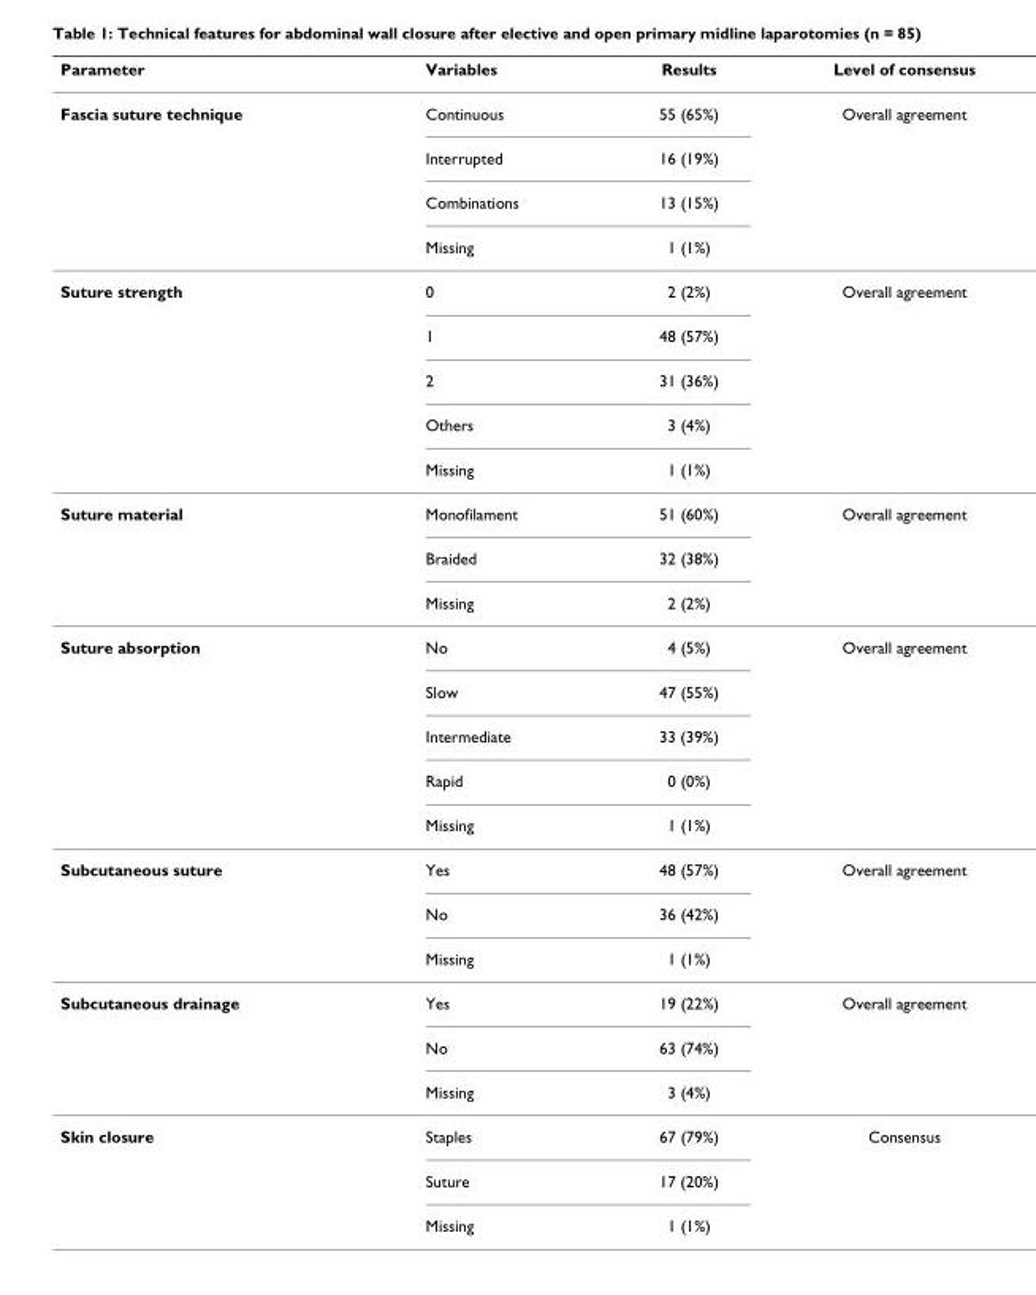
<table><thead><tr><td>Parameter</td><td>Variables</td><td>Results</td><td>Level of consensus</td></tr></thead><tbody><tr><td rowspan="4">Fascia suture technique</td><td>Continuous</td><td>55 (65%)</td><td>Overall agreement</td></tr><tr><td>Interrupted</td><td>16 (19%)</td><td></td></tr><tr><td>Combinations</td><td>13 (15%)</td><td></td></tr><tr><td>Missing</td><td>1 (1%)</td><td></td></tr><tr><td rowspan="5">Suture strength</td><td>0</td><td>2 (2%)</td><td>Overall agreement</td></tr><tr><td>1</td><td>48 (57%)</td><td></td></tr><tr><td>2</td><td>31 (36%)</td><td></td></tr><tr><td>Others</td><td>3 (4%)</td><td></td></tr><tr><td>Missing</td><td>1 (1%)</td><td></td></tr><tr><td rowspan="3">Suture material</td><td>Monofilament</td><td>51 (60%)</td><td>Overall agreement</td></tr><tr><td>Braided</td><td>32 (38%)</td><td></td></tr><tr><td>Missing</td><td>2 (2%)</td><td></td></tr><tr><td rowspan="5">Suture absorption</td><td>No</td><td>4 (5%)</td><td>Overall agreement</td></tr><tr><td>Slow</td><td>47 (55%)</td><td></td></tr><tr><td>Intermediate</td><td>33 (39%)</td><td></td></tr><tr><td>Rapid</td><td>0 (0%)</td><td></td></tr><tr><td>Missing</td><td>1 (1%)</td><td></td></tr><tr><td rowspan="3">Subcutaneous suture</td><td>Yes</td><td>48 (57%)</td><td>Overall agreement</td></tr><tr><td>No</td><td>36 (42%)</td><td></td></tr><tr><td>Missing</td><td>1 (1%)</td><td></td></tr><tr><td rowspan="3">Subcutaneous drainage</td><td>Yes</td><td>19 (22%)</td><td>Overall agreement</td></tr><tr><td>No</td><td>63 (74%)</td><td></td></tr><tr><td>Missing</td><td>3 (4%)</td><td></td></tr><tr><td rowspan="3">Skin closure</td><td>Staples</td><td>67 (79%)</td><td>Consensus</td></tr><tr><td>Suture</td><td>17 (20%)</td><td></td></tr><tr><td>Missing</td><td>1 (1%)</td><td></td></tr></tbody></table>